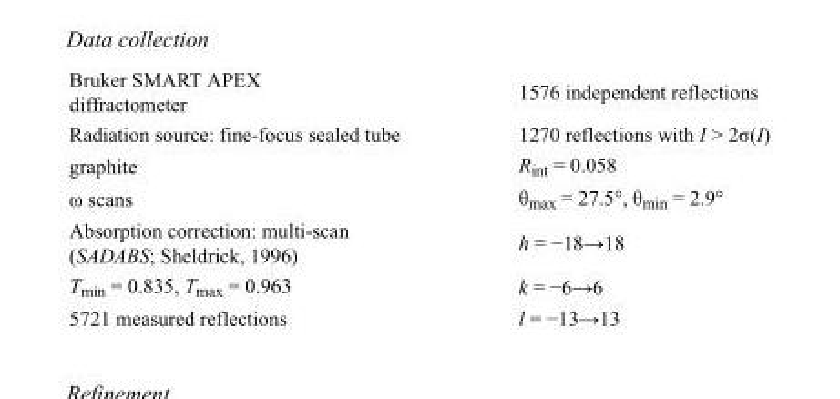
<table><tbody><tr><td>Bruker SMART APEX diffractometer</td><td>1576 independent reflections</td></tr><tr><td>Radiation source: fine-focus sealed tube</td><td>1270 reflections with I &gt; 2σ(I)</td></tr><tr><td>graphite</td><td>R<sub>int</sub> = 0.058</td></tr><tr><td>ω scans</td><td>θ<sub>max</sub> = 27.5°, θ<sub>min</sub> = 2.9°</td></tr><tr><td>Absorption correction: multi-scan (SADABS; Sheldrick, 1996)</td><td>h = −18→18</td></tr><tr><td>T<sub>min</sub> = 0.835, T<sub>max</sub> = 0.963</td><td>k = −6→6</td></tr><tr><td>5721 measured reflections</td><td>l = −13→13</td></tr></tbody></table>